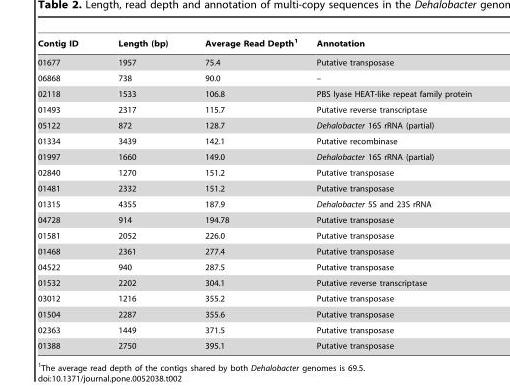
<table><thead><tr><td>Contig ID</td><td>Length (bp)</td><td>Average Read Depth<sup>1</sup></td><td>Annotation</td></tr></thead><tbody><tr><td>01677</td><td>1957</td><td>75.4</td><td>Putative transposase</td></tr><tr><td>06868</td><td>738</td><td>90.0</td><td>–</td></tr><tr><td>02118</td><td>1533</td><td>106.8</td><td>PBS lyase HEAT-like repeat family protein</td></tr><tr><td>01493</td><td>2317</td><td>115.7</td><td>Putative reverse transcriptase</td></tr><tr><td>05122</td><td>872</td><td>128.7</td><td>Dehalobacter 16S rRNA (partial)</td></tr><tr><td>01334</td><td>3439</td><td>142.1</td><td>Putative recombinase</td></tr><tr><td>01997</td><td>1660</td><td>149.0</td><td>Dehalobacter 16S rRNA (partial)</td></tr><tr><td>02840</td><td>1270</td><td>151.2</td><td>Putative transposase</td></tr><tr><td>01481</td><td>2332</td><td>151.2</td><td>Putative transposase</td></tr><tr><td>01315</td><td>4355</td><td>187.9</td><td>Dehalobacter 5S and 23S rRNA</td></tr><tr><td>04728</td><td>914</td><td>194.78</td><td>Putative transposase</td></tr><tr><td>01581</td><td>2052</td><td>226.0</td><td>Putative transposase</td></tr><tr><td>01468</td><td>2361</td><td>277.4</td><td>Putative transposase</td></tr><tr><td>04522</td><td>940</td><td>287.5</td><td>Putative transposase</td></tr><tr><td>01532</td><td>2202</td><td>304.1</td><td>Putative reverse transcriptase</td></tr><tr><td>03012</td><td>1216</td><td>355.2</td><td>Putative transposase</td></tr><tr><td>01504</td><td>2287</td><td>355.6</td><td>Putative transposase</td></tr><tr><td>02363</td><td>1449</td><td>371.5</td><td>Putative transposase</td></tr><tr><td>01388</td><td>2750</td><td>395.1</td><td>Putative transposase</td></tr></tbody></table>